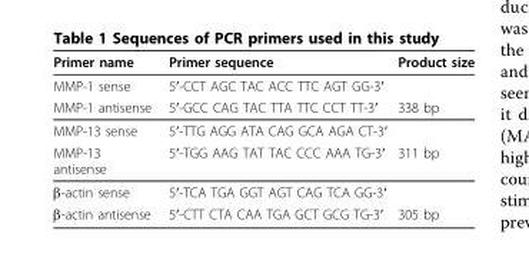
<table><thead><tr><td>Primer name</td><td>Primer sequence</td><td>Product size</td></tr></thead><tbody><tr><td>MMP-1 sense</td><td>5′-CCT AGC TAC ACC TTC AGT GG-3′</td><td></td></tr><tr><td>MMP-1 antisense</td><td>5′-GCC CAG TAC TTA TTC CCT TT-3′</td><td>338 bp</td></tr><tr><td>MMP-13 sense</td><td>5′-TTG AGG ATA CAG GCA AGA CT-3′</td><td></td></tr><tr><td>MMP-13 antisense</td><td>5′-TGG AAG TAT TAC CCC AAA TG-3′</td><td>311 bp</td></tr><tr><td>β-actin sense</td><td>5′-TCA TGA GGT AGT CAG TCA GG-3′</td><td></td></tr><tr><td>β-actin antisense</td><td>5′-CTT CTA CAA TGA GCT GCG TG-3′</td><td>305 bp</td></tr></tbody></table>